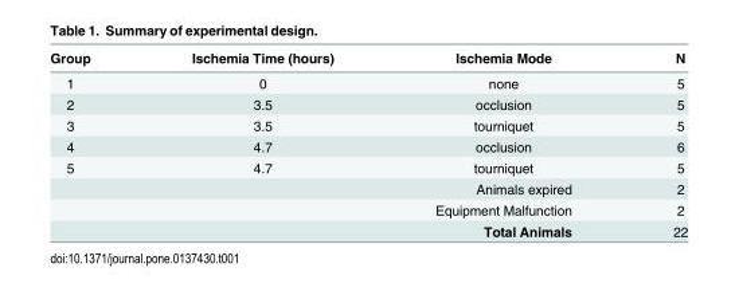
<table><thead><tr><td>Group</td><td>Ischemia Time (hours)</td><td>Ischemia Mode</td><td>N</td></tr></thead><tbody><tr><td>1</td><td>0</td><td>none</td><td>5</td></tr><tr><td>2</td><td>3.5</td><td>occlusion</td><td>5</td></tr><tr><td>3</td><td>3.5</td><td>tourniquet</td><td>5</td></tr><tr><td>4</td><td>4.7</td><td>occlusion</td><td>6</td></tr><tr><td rowspan="4">5</td><td>4.7</td><td>tourniquet</td><td>5</td></tr><tr><td></td><td>Animals expired</td><td>2</td></tr><tr><td></td><td>Equipment Malfunction</td><td>2</td></tr><tr><td></td><td>Total Animals</td><td>22</td></tr></tbody></table>